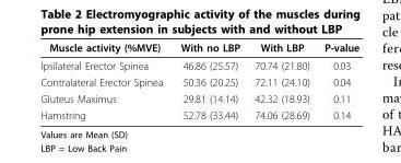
<table><thead><tr><td>Muscle activity (%MVE)</td><td>With no LBP</td><td>With LBP</td><td>P-value</td></tr></thead><tbody><tr><td>Ipsilateral Erector Spinea</td><td>46.86 (25.57)</td><td>70.74 (21.80)</td><td>0.03</td></tr><tr><td>Contralateral Erector Spinea</td><td>50.36 (20.25)</td><td>72.11 (24.10)</td><td>0.04</td></tr><tr><td>Gluteus Maximus</td><td>29.81 (14.14)</td><td>42.32 (18.93)</td><td>0.11</td></tr><tr><td>Hamstring</td><td>52.78 (33.44)</td><td>74.06 (28.69)</td><td>0.14</td></tr></tbody></table>